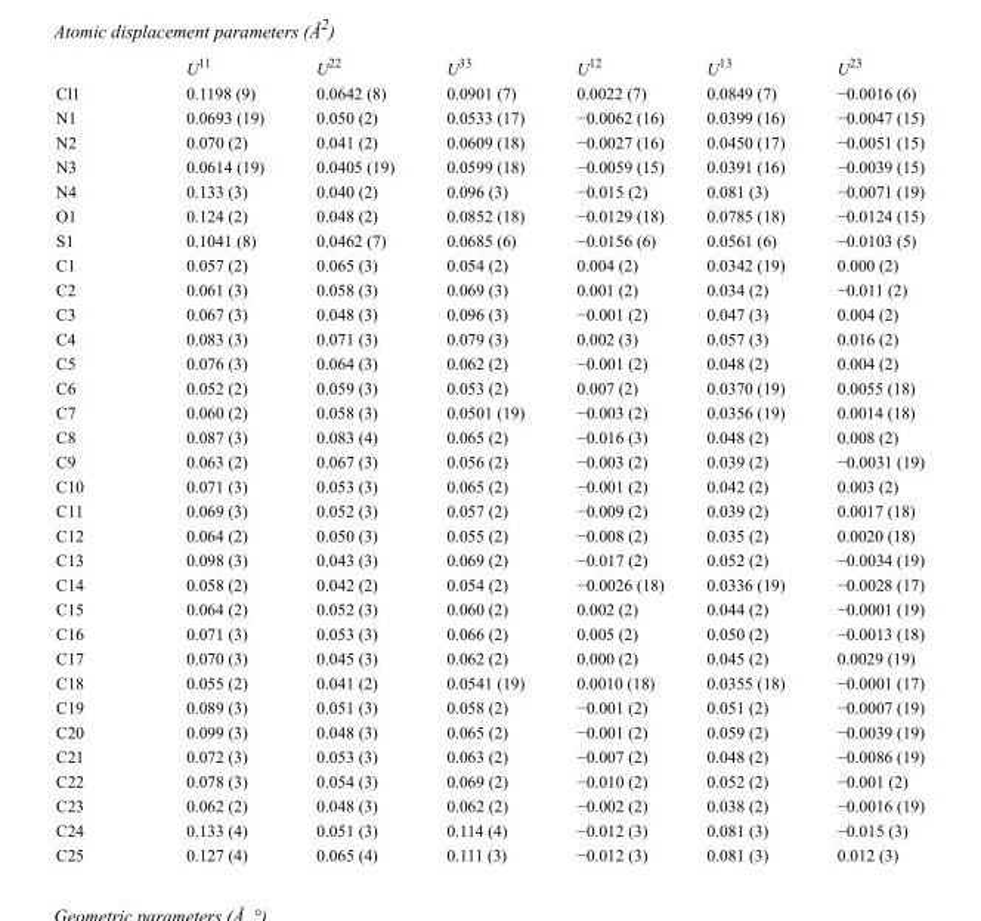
<table><thead><tr><td></td><td>U<sup>11</sup></td><td>U<sup>22</sup></td><td>U<sup>33</sup></td><td>U<sup>12</sup></td><td>U<sup>13</sup></td><td>U<sup>23</sup></td></tr></thead><tbody><tr><td>Cl1</td><td>0.1198 (9)</td><td>0.0642 (8)</td><td>0.0901 (7)</td><td>0.0022 (7)</td><td>0.0849 (7)</td><td>−0.0016 (6)</td></tr><tr><td>N1</td><td>0.0693 (19)</td><td>0.050 (2)</td><td>0.0533 (17)</td><td>−0.0062 (16)</td><td>0.0399 (16)</td><td>−0.0047 (15)</td></tr><tr><td>N2</td><td>0.070 (2)</td><td>0.041 (2)</td><td>0.0609 (18)</td><td>−0.0027 (16)</td><td>0.0450 (17)</td><td>−0.0051 (15)</td></tr><tr><td>N3</td><td>0.0614 (19)</td><td>0.0405 (19)</td><td>0.0599 (18)</td><td>−0.0059 (15)</td><td>0.0391 (16)</td><td>−0.0039 (15)</td></tr><tr><td>N4</td><td>0.133 (3)</td><td>0.040 (2)</td><td>0.096 (3)</td><td>−0.015 (2)</td><td>0.081 (3)</td><td>−0.0071 (19)</td></tr><tr><td>O1</td><td>0.124 (2)</td><td>0.048 (2)</td><td>0.0852 (18)</td><td>−0.0129 (18)</td><td>0.0785 (18)</td><td>−0.0124 (15)</td></tr><tr><td>S1</td><td>0.1041 (8)</td><td>0.0462 (7)</td><td>0.0685 (6)</td><td>−0.0156 (6)</td><td>0.0561 (6)</td><td>−0.0103 (5)</td></tr><tr><td>C1</td><td>0.057 (2)</td><td>0.065 (3)</td><td>0.054 (2)</td><td>0.004 (2)</td><td>0.0342 (19)</td><td>0.000 (2)</td></tr><tr><td>C2</td><td>0.061 (3)</td><td>0.058 (3)</td><td>0.069 (3)</td><td>0.001 (2)</td><td>0.034 (2)</td><td>−0.011 (2)</td></tr><tr><td>C3</td><td>0.067 (3)</td><td>0.048 (3)</td><td>0.096 (3)</td><td>−0.001 (2)</td><td>0.047 (3)</td><td>0.004 (2)</td></tr><tr><td>C4</td><td>0.083 (3)</td><td>0.071 (3)</td><td>0.079 (3)</td><td>0.002 (3)</td><td>0.057 (3)</td><td>0.016 (2)</td></tr><tr><td>C5</td><td>0.076 (3)</td><td>0.064 (3)</td><td>0.062 (2)</td><td>−0.001 (2)</td><td>0.048 (2)</td><td>0.004 (2)</td></tr><tr><td>C6</td><td>0.052 (2)</td><td>0.059 (3)</td><td>0.053 (2)</td><td>0.007 (2)</td><td>0.0370 (19)</td><td>0.0055 (18)</td></tr><tr><td>C7</td><td>0.060 (2)</td><td>0.058 (3)</td><td>0.0501 (19)</td><td>−0.003 (2)</td><td>0.0356 (19)</td><td>0.0014 (18)</td></tr><tr><td>C8</td><td>0.087 (3)</td><td>0.083 (4)</td><td>0.065 (2)</td><td>−0.016 (3)</td><td>0.048 (2)</td><td>0.008 (2)</td></tr><tr><td>C9</td><td>0.063 (2)</td><td>0.067 (3)</td><td>0.056 (2)</td><td>−0.003 (2)</td><td>0.039 (2)</td><td>−0.0031 (19)</td></tr><tr><td>C10</td><td>0.071 (3)</td><td>0.053 (3)</td><td>0.065 (2)</td><td>−0.001 (2)</td><td>0.042 (2)</td><td>0.003 (2)</td></tr><tr><td>C11</td><td>0.069 (3)</td><td>0.052 (3)</td><td>0.057 (2)</td><td>−0.009 (2)</td><td>0.039 (2)</td><td>0.0017 (18)</td></tr><tr><td>C12</td><td>0.064 (2)</td><td>0.050 (3)</td><td>0.055 (2)</td><td>−0.008 (2)</td><td>0.035 (2)</td><td>0.0020 (18)</td></tr><tr><td>C13</td><td>0.098 (3)</td><td>0.043 (3)</td><td>0.069 (2)</td><td>−0.017 (2)</td><td>0.052 (2)</td><td>−0.0034 (19)</td></tr><tr><td>C14</td><td>0.058 (2)</td><td>0.042 (2)</td><td>0.054 (2)</td><td>−0.0026 (18)</td><td>0.0336 (19)</td><td>−0.0028 (17)</td></tr><tr><td>C15</td><td>0.064 (2)</td><td>0.052 (3)</td><td>0.060 (2)</td><td>0.002 (2)</td><td>0.044 (2)</td><td>−0.0001 (19)</td></tr><tr><td>C16</td><td>0.071 (3)</td><td>0.053 (3)</td><td>0.066 (2)</td><td>0.005 (2)</td><td>0.050 (2)</td><td>−0.0013 (18)</td></tr><tr><td>C17</td><td>0.070 (3)</td><td>0.045 (3)</td><td>0.062 (2)</td><td>0.000 (2)</td><td>0.045 (2)</td><td>0.0029 (19)</td></tr><tr><td>C18</td><td>0.055 (2)</td><td>0.041 (2)</td><td>0.0541 (19)</td><td>0.0010 (18)</td><td>0.0355 (18)</td><td>−0.0001 (17)</td></tr><tr><td>C19</td><td>0.089 (3)</td><td>0.051 (3)</td><td>0.058 (2)</td><td>−0.001 (2)</td><td>0.051 (2)</td><td>−0.0007 (19)</td></tr><tr><td>C20</td><td>0.099 (3)</td><td>0.048 (3)</td><td>0.065 (2)</td><td>−0.001 (2)</td><td>0.059 (2)</td><td>−0.0039 (19)</td></tr><tr><td>C21</td><td>0.072 (3)</td><td>0.053 (3)</td><td>0.063 (2)</td><td>−0.007 (2)</td><td>0.048 (2)</td><td>−0.0086 (19)</td></tr><tr><td>C22</td><td>0.078 (3)</td><td>0.054 (3)</td><td>0.069 (2)</td><td>−0.010 (2)</td><td>0.052 (2)</td><td>−0.001 (2)</td></tr><tr><td>C23</td><td>0.062 (2)</td><td>0.048 (3)</td><td>0.062 (2)</td><td>−0.002 (2)</td><td>0.038 (2)</td><td>−0.0016 (19)</td></tr><tr><td>C24</td><td>0.133 (4)</td><td>0.051 (3)</td><td>0.114 (4)</td><td>−0.012 (3)</td><td>0.081 (3)</td><td>−0.015 (3)</td></tr><tr><td>C25</td><td>0.127 (4)</td><td>0.065 (4)</td><td>0.111 (3)</td><td>−0.012 (3)</td><td>0.081 (3)</td><td>0.012 (3)</td></tr></tbody></table>